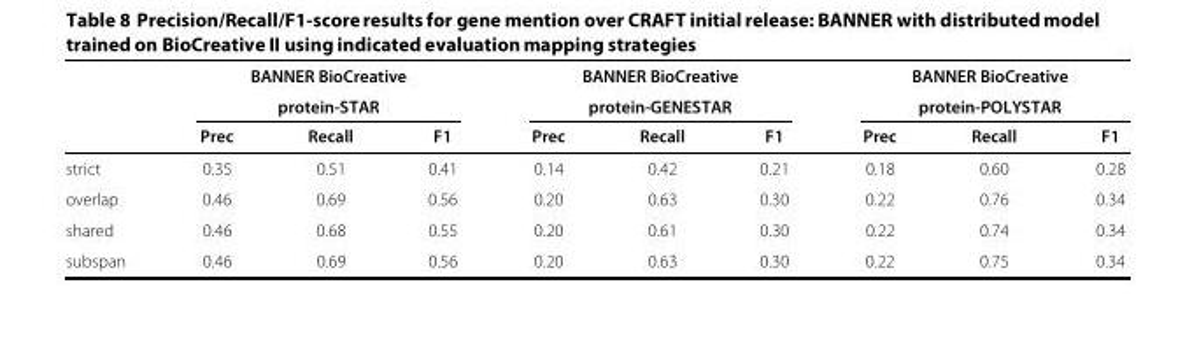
<table><thead><tr><td rowspan="2"></td><td colspan="3">BANNER BioCreative protein-STAR</td><td colspan="3">BANNER BioCreative protein-GENESTAR</td><td colspan="3">BANNER BioCreative protein-POLYSTAR</td></tr><tr><td>Prec</td><td>Recall</td><td>F1</td><td>Prec</td><td>Recall</td><td>F1</td><td>Prec</td><td>Recall</td><td>F1</td></tr></thead><tbody><tr><td>strict</td><td>0.35</td><td>0.51</td><td>0.41</td><td>0.14</td><td>0.42</td><td>0.21</td><td>0.18</td><td>0.60</td><td>0.28</td></tr><tr><td>overlap</td><td>0.46</td><td>0.69</td><td>0.56</td><td>0.20</td><td>0.63</td><td>0.30</td><td>0.22</td><td>0.76</td><td>0.34</td></tr><tr><td>shared</td><td>0.46</td><td>0.68</td><td>0.55</td><td>0.20</td><td>0.61</td><td>0.30</td><td>0.22</td><td>0.74</td><td>0.34</td></tr><tr><td>subspan</td><td>0.46</td><td>0.69</td><td>0.56</td><td>0.20</td><td>0.63</td><td>0.30</td><td>0.22</td><td>0.75</td><td>0.34</td></tr></tbody></table>